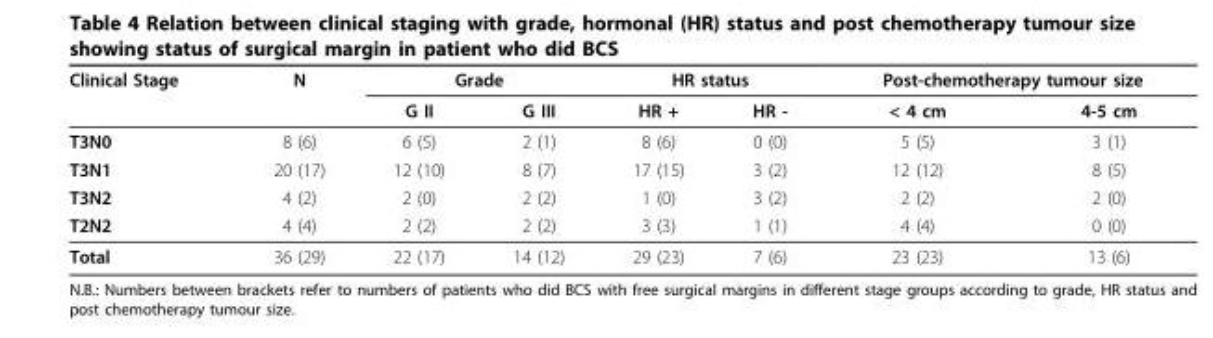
<table><thead><tr><td rowspan="2">Clinical Stage</td><td rowspan="2">N</td><td colspan="2">Grade</td><td colspan="2">HR status</td><td colspan="2">Post-chemotherapy tumour size</td></tr><tr><td>G II</td><td>G III</td><td>HR +</td><td>HR -</td><td>&lt; 4 cm</td><td>4-5 cm</td></tr></thead><tbody><tr><td>T3N0</td><td>8 (6)</td><td>6 (5)</td><td>2 (1)</td><td>8 (6)</td><td>0 (0)</td><td>5 (5)</td><td>3 (1)</td></tr><tr><td>T3N1</td><td>20 (17)</td><td>12 (10)</td><td>8 (7)</td><td>17 (15)</td><td>3 (2)</td><td>12 (12)</td><td>8 (5)</td></tr><tr><td>T3N2</td><td>4 (2)</td><td>2 (0)</td><td>2 (2)</td><td>1 (0)</td><td>3 (2)</td><td>2 (2)</td><td>2 (0)</td></tr><tr><td>T2N2</td><td>4 (4)</td><td>2 (2)</td><td>2 (2)</td><td>3 (3)</td><td>1 (1)</td><td>4 (4)</td><td>0 (0)</td></tr><tr><td>Total</td><td>36 (29)</td><td>22 (17)</td><td>14 (12)</td><td>29 (23)</td><td>7 (6)</td><td>23 (23)</td><td>13 (6)</td></tr></tbody></table>